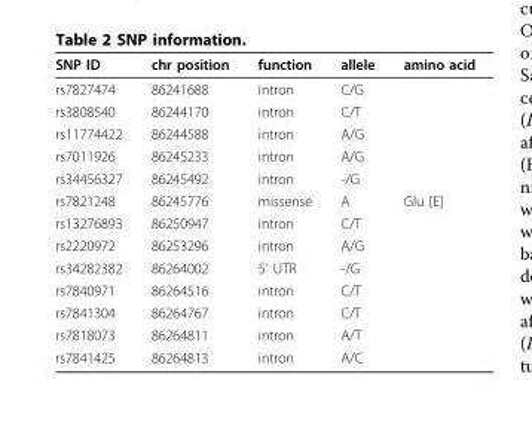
<table><thead><tr><td>SNP ID</td><td>chr position</td><td>function</td><td>allele</td><td>amino acid</td></tr></thead><tbody><tr><td>rs7827474</td><td>86241688</td><td>intron</td><td>C/G</td><td></td></tr><tr><td>rs3808540</td><td>86244170</td><td>intron</td><td>C/T</td><td></td></tr><tr><td>rs11774422</td><td>86244588</td><td>intron</td><td>A/G</td><td></td></tr><tr><td>rs7011926</td><td>86245233</td><td>intron</td><td>A/G</td><td></td></tr><tr><td>rs34456327</td><td>86245492</td><td>intron</td><td>-/G</td><td></td></tr><tr><td>rs7821248</td><td>86245776</td><td>missense</td><td>A</td><td>Glu [E]</td></tr><tr><td>rs13276893</td><td>86250947</td><td>intron</td><td>C/T</td><td></td></tr><tr><td>rs2220972</td><td>86253296</td><td>intron</td><td>A/G</td><td></td></tr><tr><td>rs34282382</td><td>86264002</td><td>5’ UTR</td><td>-/G</td><td></td></tr><tr><td>rs7840971</td><td>86264516</td><td>intron</td><td>C/T</td><td></td></tr><tr><td>rs7841304</td><td>86264767</td><td>intron</td><td>C/T</td><td></td></tr><tr><td>rs7818073</td><td>86264811</td><td>intron</td><td>A/T</td><td></td></tr><tr><td>rs7841425</td><td>86264813</td><td>intron</td><td>A/C</td><td></td></tr></tbody></table>